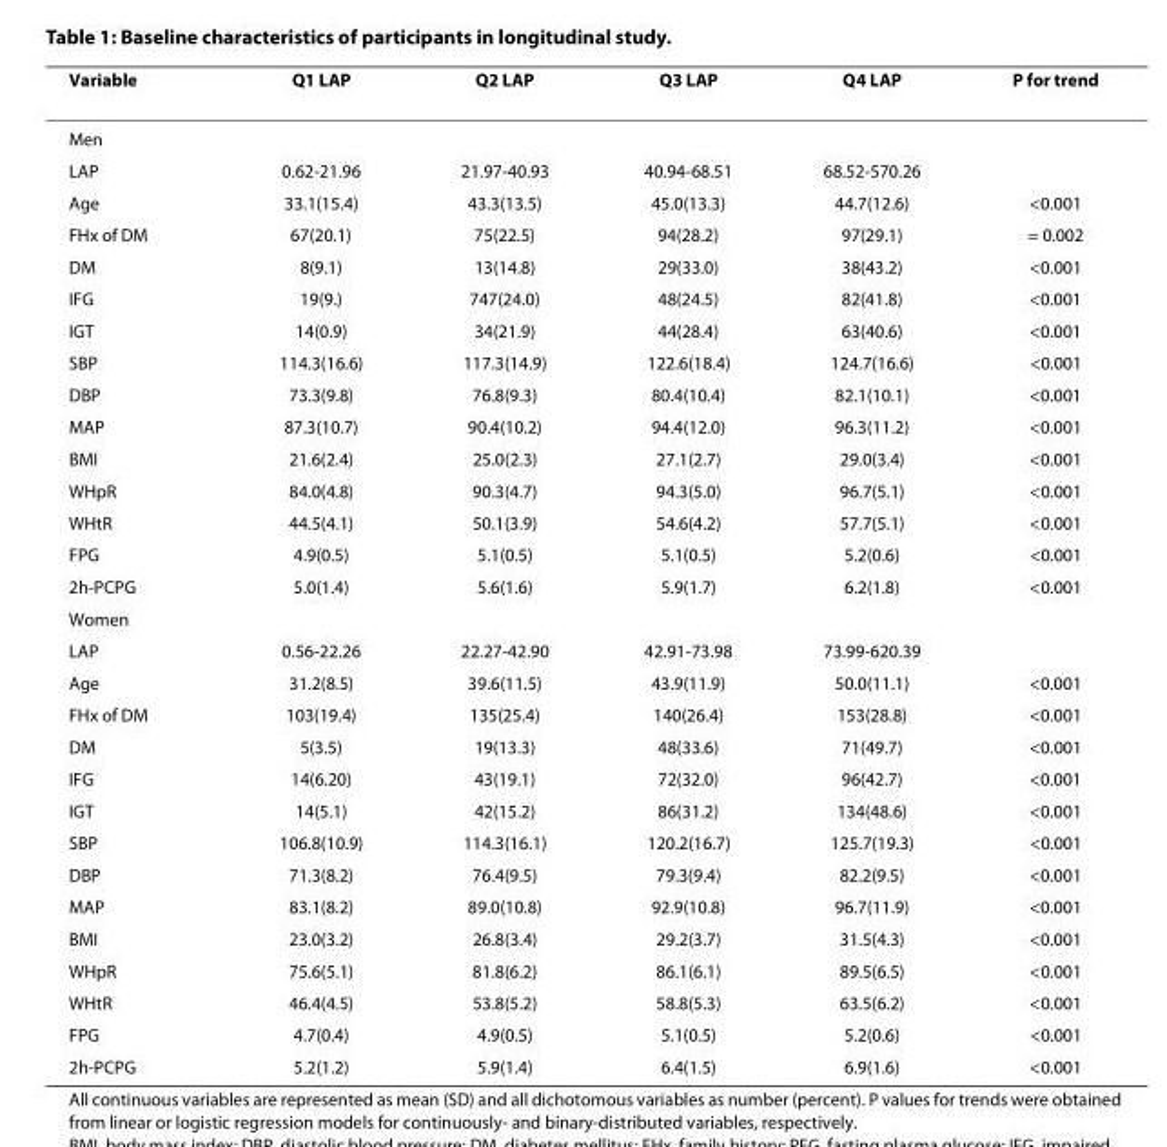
<table><thead><tr><td>Variable</td><td>Q1 LAP</td><td>Q2 LAP</td><td>Q3 LAP</td><td>Q4 LAP</td><td>P for trend</td></tr></thead><tbody><tr><td colspan="6">Men</td></tr><tr><td>LAP</td><td>0.62-21.96</td><td>21.97-40.93</td><td>40.94-68.51</td><td>68.52-570.26</td><td></td></tr><tr><td>Age</td><td>33.1(15.4)</td><td>43.3(13.5)</td><td>45.0(13.3)</td><td>44.7(12.6)</td><td>&lt;0.001</td></tr><tr><td>FHx of DM</td><td>67(20.1)</td><td>75(22.5)</td><td>94(28.2)</td><td>97(29.1)</td><td>= 0.002</td></tr><tr><td>DM</td><td>8(9.1)</td><td>13(14.8)</td><td>29(33.0)</td><td>38(43.2)</td><td>&lt;0.001</td></tr><tr><td>IFG</td><td>19(9.)</td><td>747(24.0)</td><td>48(24.5)</td><td>82(41.8)</td><td>&lt;0.001</td></tr><tr><td>IGT</td><td>14(0.9)</td><td>34(21.9)</td><td>44(28.4)</td><td>63(40.6)</td><td>&lt;0.001</td></tr><tr><td>SBP</td><td>114.3(16.6)</td><td>117.3(14.9)</td><td>122.6(18.4)</td><td>124.7(16.6)</td><td>&lt;0.001</td></tr><tr><td>DBP</td><td>73.3(9.8)</td><td>76.8(9.3)</td><td>80.4(10.4)</td><td>82.1(10.1)</td><td>&lt;0.001</td></tr><tr><td>MAP</td><td>87.3(10.7)</td><td>90.4(10.2)</td><td>94.4(12.0)</td><td>96.3(11.2)</td><td>&lt;0.001</td></tr><tr><td>BMI</td><td>21.6(2.4)</td><td>25.0(2.3)</td><td>27.1(2.7)</td><td>29.0(3.4)</td><td>&lt;0.001</td></tr><tr><td>WHpR</td><td>84.0(4.8)</td><td>90.3(4.7)</td><td>94.3(5.0)</td><td>96.7(5.1)</td><td>&lt;0.001</td></tr><tr><td>WHtR</td><td>44.5(4.1)</td><td>50.1(3.9)</td><td>54.6(4.2)</td><td>57.7(5.1)</td><td>&lt;0.001</td></tr><tr><td>FPG</td><td>4.9(0.5)</td><td>5.1(0.5)</td><td>5.1(0.5)</td><td>5.2(0.6)</td><td>&lt;0.001</td></tr><tr><td>2h-PCPG</td><td>5.0(1.4)</td><td>5.6(1.6)</td><td>5.9(1.7)</td><td>6.2(1.8)</td><td>&lt;0.001</td></tr><tr><td colspan="6">Women</td></tr><tr><td>LAP</td><td>0.56-22.26</td><td>22.27-42.90</td><td>42.91-73.98</td><td>73.99-620.39</td><td></td></tr><tr><td>Age</td><td>31.2(8.5)</td><td>39.6(11.5)</td><td>43.9(11.9)</td><td>50.0(11.1)</td><td>&lt;0.001</td></tr><tr><td>FHx of DM</td><td>103(19.4)</td><td>135(25.4)</td><td>140(26.4)</td><td>153(28.8)</td><td>&lt;0.001</td></tr><tr><td>DM</td><td>5(3.5)</td><td>19(13.3)</td><td>48(33.6)</td><td>71(49.7)</td><td>&lt;0.001</td></tr><tr><td>IFG</td><td>14(6.20)</td><td>43(19.1)</td><td>72(32.0)</td><td>96(42.7)</td><td>&lt;0.001</td></tr><tr><td>IGT</td><td>14(5.1)</td><td>42(15.2)</td><td>86(31.2)</td><td>134(48.6)</td><td>&lt;0.001</td></tr><tr><td>SBP</td><td>106.8(10.9)</td><td>114.3(16.1)</td><td>120.2(16.7)</td><td>125.7(19.3)</td><td>&lt;0.001</td></tr><tr><td>DBP</td><td>71.3(8.2)</td><td>76.4(9.5)</td><td>79.3(9.4)</td><td>82.2(9.5)</td><td>&lt;0.001</td></tr><tr><td>MAP</td><td>83.1(8.2)</td><td>89.0(10.8)</td><td>92.9(10.8)</td><td>96.7(11.9)</td><td>&lt;0.001</td></tr><tr><td>BMI</td><td>23.0(3.2)</td><td>26.8(3.4)</td><td>29.2(3.7)</td><td>31.5(4.3)</td><td>&lt;0.001</td></tr><tr><td>WHpR</td><td>75.6(5.1)</td><td>81.8(6.2)</td><td>86.1(6.1)</td><td>89.5(6.5)</td><td>&lt;0.001</td></tr><tr><td>WHtR</td><td>46.4(4.5)</td><td>53.8(5.2)</td><td>58.8(5.3)</td><td>63.5(6.2)</td><td>&lt;0.001</td></tr><tr><td>FPG</td><td>4.7(0.4)</td><td>4.9(0.5)</td><td>5.1(0.5)</td><td>5.2(0.6)</td><td>&lt;0.001</td></tr><tr><td>2h-PCPG</td><td>5.2(1.2)</td><td>5.9(1.4)</td><td>6.4(1.5)</td><td>6.9(1.6)</td><td>&lt;0.001</td></tr></tbody></table>